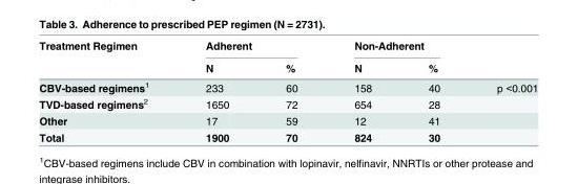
<table><thead><tr><td rowspan="2">Treatment Regimen</td><td colspan="2">Adherent</td><td colspan="2">Non-Adherent</td><td rowspan="2"></td></tr><tr><td>N</td><td>%</td><td>N</td><td>%</td></tr></thead><tbody><tr><td>CBV-based regimens<sup>1</sup></td><td>233</td><td>60</td><td>158</td><td>40</td><td>p &lt;0.001</td></tr><tr><td>TVD-based regimens<sup>2</sup></td><td>1650</td><td>72</td><td>654</td><td>28</td><td></td></tr><tr><td>Other</td><td>17</td><td>59</td><td>12</td><td>41</td><td></td></tr><tr><td>Total</td><td>1900</td><td>70</td><td>824</td><td>30</td><td></td></tr></tbody></table>